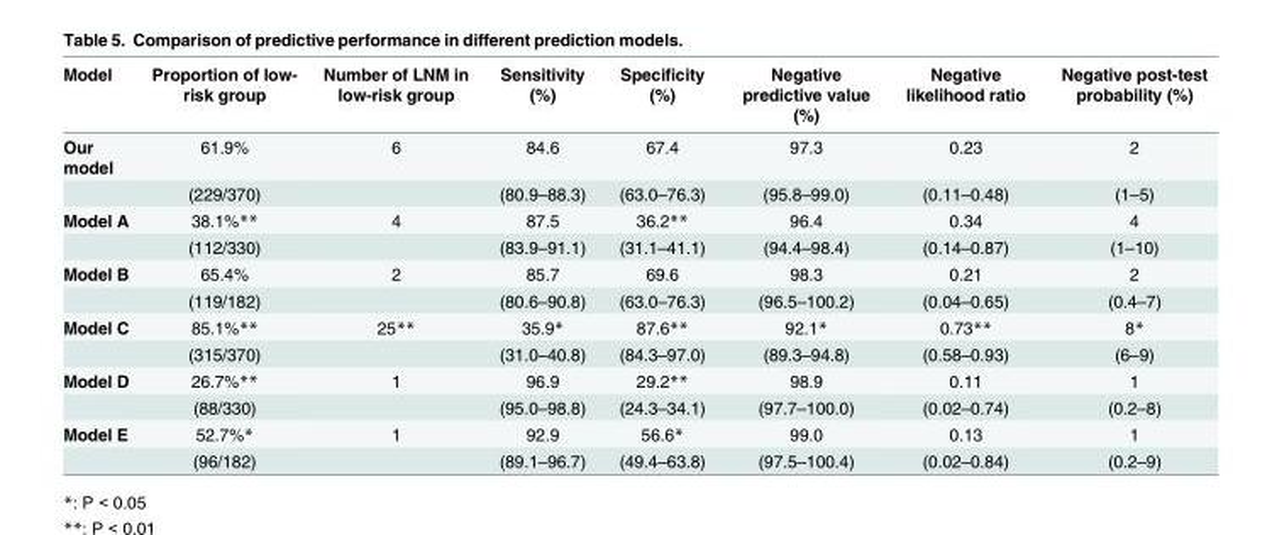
<table><thead><tr><td>Model</td><td>Proportion of low- risk group</td><td>Number of LNM in low-risk group</td><td>Sensitivity (%)</td><td>Specificity (%)</td><td>Negative predictive value (%)</td><td>Negative likelihood ratio</td><td>Negative post-test probability (%)</td></tr></thead><tbody><tr><td rowspan="2">Our model</td><td>61.9%</td><td>6</td><td>84.6</td><td>67.4</td><td>97.3</td><td>0.23</td><td>2</td></tr><tr><td>(229/370)</td><td></td><td>(80.9–88.3)</td><td>(63.0–76.3)</td><td>(95.8–99.0)</td><td>(0.11–0.48)</td><td>(1–5)</td></tr><tr><td rowspan="2">Model A</td><td>38.1%**</td><td>4</td><td>87.5</td><td>36.2**</td><td>96.4</td><td>0.34</td><td>4</td></tr><tr><td>(112/330)</td><td></td><td>(83.9–91.1)</td><td>(31.1–41.1)</td><td>(94.4–98.4)</td><td>(0.14–0.87)</td><td>(1–10)</td></tr><tr><td rowspan="2">Model B</td><td>65.4%</td><td>2</td><td>85.7</td><td>69.6</td><td>98.3</td><td>0.21</td><td>2</td></tr><tr><td>(119/182)</td><td></td><td>(80.6–90.8)</td><td>(63.0–76.3)</td><td>(96.5–100.2)</td><td>(0.04–0.65)</td><td>(0.4–7)</td></tr><tr><td rowspan="2">Model C</td><td>85.1%**</td><td>25**</td><td>35.9*</td><td>87.6**</td><td>92.1*</td><td>0.73**</td><td>8*</td></tr><tr><td>(315/370)</td><td></td><td>(31.0–40.8)</td><td>(84.3–97.0)</td><td>(89.3–94.8)</td><td>(0.58–0.93)</td><td>(6–9)</td></tr><tr><td rowspan="2">Model D</td><td>26.7%**</td><td>1</td><td>96.9</td><td>29.2**</td><td>98.9</td><td>0.11</td><td>1</td></tr><tr><td>(88/330)</td><td></td><td>(95.0–98.8)</td><td>(24.3–34.1)</td><td>(97.7–100.0)</td><td>(0.02–0.74)</td><td>(0.2–8)</td></tr><tr><td rowspan="2">Model E</td><td>52.7%*</td><td>1</td><td>92.9</td><td>56.6*</td><td>99.0</td><td>0.13</td><td>1</td></tr><tr><td>(96/182)</td><td></td><td>(89.1–96.7)</td><td>(49.4–63.8)</td><td>(97.5–100.4)</td><td>(0.02–0.84)</td><td>(0.2–9)</td></tr></tbody></table>